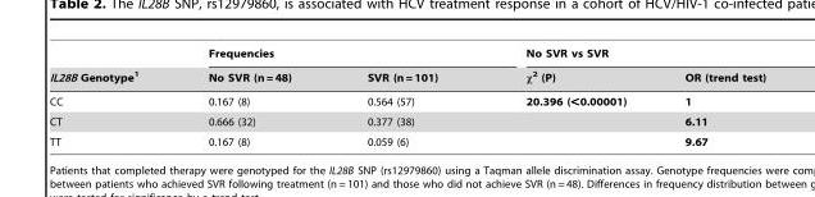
<table><thead><tr><td rowspan="2">IL28B Genotype<sup>1</sup></td><td colspan="2">Frequencies</td><td colspan="2">No SVR vs SVR</td></tr><tr><td>No SVR (n = 48)</td><td>SVR (n = 101)</td><td>χ<sup>2</sup> (P)</td><td>OR (trend test)</td></tr></thead><tbody><tr><td>CC</td><td>0.167 (8)</td><td>0.564 (57)</td><td>20.396 (&lt;0.00001)</td><td>1</td></tr><tr><td>CT</td><td>0.666 (32)</td><td>0.377 (38)</td><td></td><td>6.11</td></tr><tr><td>TT</td><td>0.167 (8)</td><td>0.059 (6)</td><td></td><td>9.67</td></tr></tbody></table>